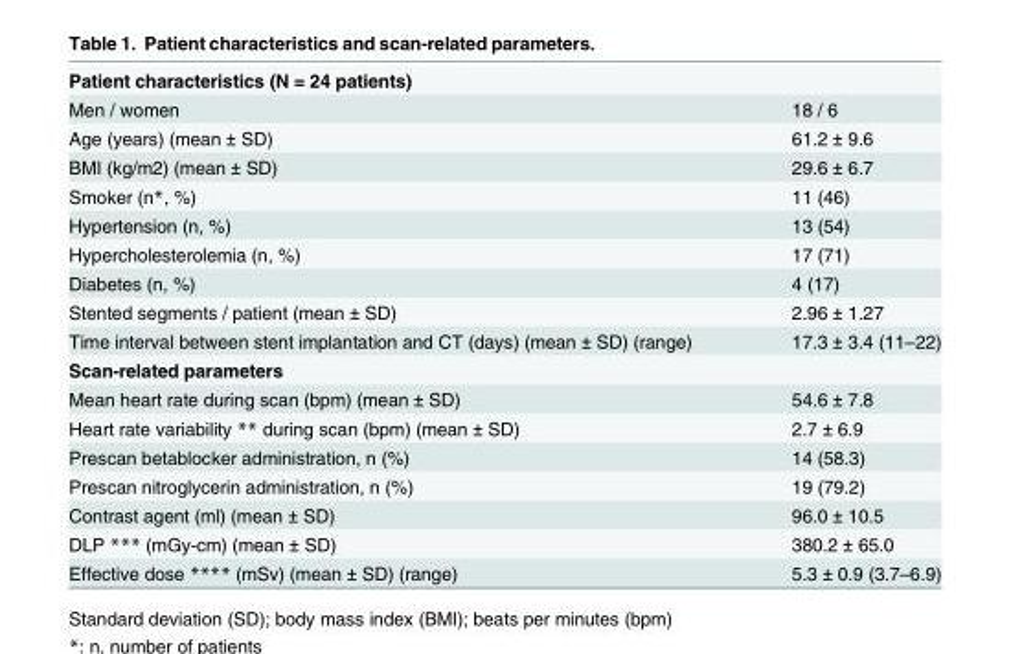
<table><tbody><tr><td colspan="2">Patient characteristics (N = 24 patients)</td></tr><tr><td>Men / women</td><td>18 / 6</td></tr><tr><td>Age (years) (mean ± SD)</td><td>61.2 ± 9.6</td></tr><tr><td>BMI (kg/m2) (mean ± SD)</td><td>29.6 ± 6.7</td></tr><tr><td>Smoker (n*, %)</td><td>11 (46)</td></tr><tr><td>Hypertension (n, %)</td><td>13 (54)</td></tr><tr><td>Hypercholesterolemia (n, %)</td><td>17 (71)</td></tr><tr><td>Diabetes (n, %)</td><td>4 (17)</td></tr><tr><td>Stented segments / patient (mean ± SD)</td><td>2.96 ± 1.27</td></tr><tr><td>Time interval between stent implantation and CT (days) (mean ± SD) (range)</td><td>17.3 ± 3.4 (11–22)</td></tr><tr><td colspan="2">Scan-related parameters</td></tr><tr><td>Mean heart rate during scan (bpm) (mean ± SD)</td><td>54.6 ± 7.8</td></tr><tr><td>Heart rate variability ** during scan (bpm) (mean ± SD)</td><td>2.7 ± 6.9</td></tr><tr><td>Prescan betablocker administration, n (%)</td><td>14 (58.3)</td></tr><tr><td>Prescan nitroglycerin administration, n (%)</td><td>19 (79.2)</td></tr><tr><td>Contrast agent (ml) (mean ± SD)</td><td>96.0 ± 10.5</td></tr><tr><td>DLP *** (mGy-cm) (mean ± SD)</td><td>380.2 ± 65.0</td></tr><tr><td>Effective dose **** (mSv) (mean ± SD) (range)</td><td>5.3 ± 0.9 (3.7–6.9)</td></tr></tbody></table>